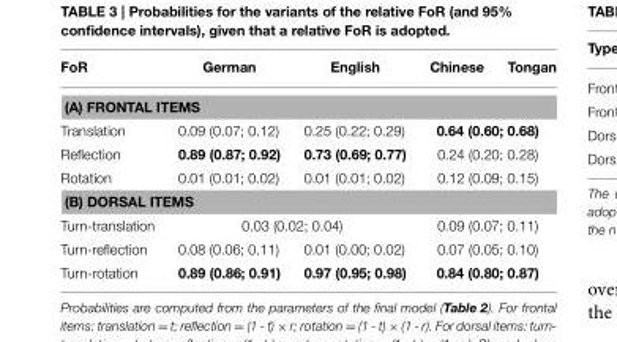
<table><thead><tr><td>FoR</td><td>German</td><td>English</td><td>Chinese</td><td>Tongan</td></tr></thead><tbody><tr><td colspan="5">(A) FRONTAL ITEMS</td></tr><tr><td>Translation</td><td>0.09 (0.07; 0.12)</td><td>0.25 (0.22; 0.29)</td><td colspan="2">0.64 (0.60; 0.68)</td></tr><tr><td>Reflection</td><td>0.89 (0.87; 0.92)</td><td>0.73 (0.69; 0.77)</td><td colspan="2">0.24 (0.20; 0.28)</td></tr><tr><td>Rotation</td><td>0.01 (0.01; 0.02)</td><td>0.01 (0.01; 0.02)</td><td colspan="2">0.12 (0.09; 0.15)</td></tr><tr><td colspan="5">(B) DORSAL ITEMS</td></tr><tr><td>Turn-translation</td><td colspan="2">0.03 (0.02; 0.04)</td><td colspan="2">0.09 (0.07; 0.11)</td></tr><tr><td>Turn-reflection</td><td>0.08 (0.06; 0.11)</td><td>0.01 (0.00; 0.02)</td><td colspan="2">0.07 (0.05; 0.10)</td></tr><tr><td>Turn-rotation</td><td>0.89 (0.86; 0.91)</td><td>0.97 (0.95; 0.98)</td><td colspan="2">0.84 (0.80; 0.87)</td></tr></tbody></table>